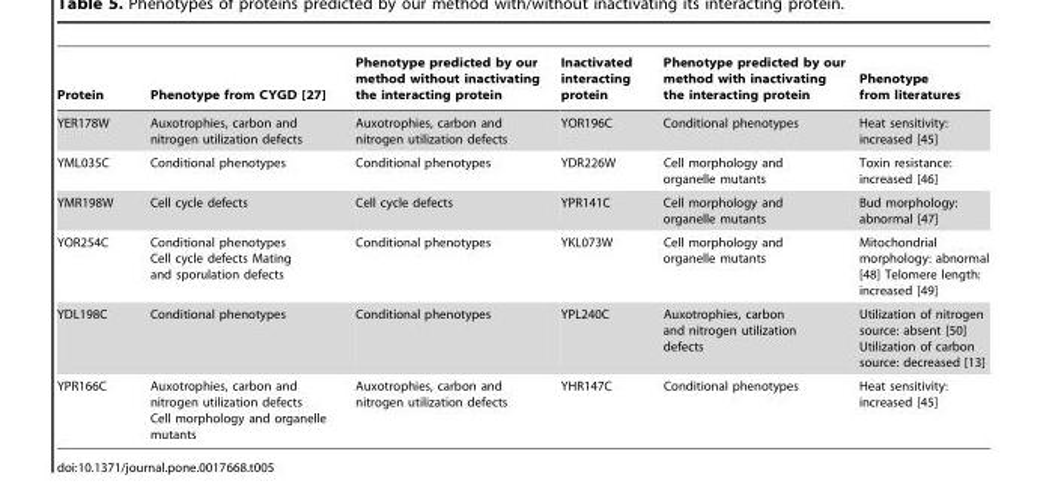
<table><thead><tr><td>Protein</td><td>Phenotype from CYGD [27]</td><td>Phenotype predicted by our method without inactivating the interacting protein</td><td>Inactivated interacting protein</td><td>Phenotype predicted by our method with inactivating the interacting protein</td><td>Phenotype from literatures</td></tr></thead><tbody><tr><td>YER178W</td><td>Auxotrophies, carbon and nitrogen utilization defects</td><td>Auxotrophies, carbon and nitrogen utilization defects</td><td>YOR196C</td><td>Conditional phenotypes</td><td>Heat sensitivity: increased [45]</td></tr><tr><td>YML035C</td><td>Conditional phenotypes</td><td>Conditional phenotypes</td><td>YDR226W</td><td>Cell morphology and organelle mutants</td><td>Toxin resistance: increased [46]</td></tr><tr><td>YMR198W</td><td>Cell cycle defects</td><td>Cell cycle defects</td><td>YPR141C</td><td>Cell morphology and organelle mutants</td><td>Bud morphology: abnormal [47]</td></tr><tr><td>YOR254C</td><td>Conditional phenotypes Cell cycle defects Mating and sporulation defects</td><td>Conditional phenotypes</td><td>YKL073W</td><td>Cell morphology and organelle mutants</td><td>Mitochondrial morphology: abnormal [48] Telomere length: increased [49]</td></tr><tr><td>YDL198C</td><td>Conditional phenotypes</td><td>Conditional phenotypes</td><td>YPL240C</td><td>Auxotrophies, carbon and nitrogen utilization defects</td><td>Utilization of nitrogen source: absent [50] Utilization of carbon source: decreased [13]</td></tr><tr><td>YPR166C</td><td>Auxotrophies, carbon and nitrogen utilization defects Cell morphology and organelle mutants</td><td>Auxotrophies, carbon and nitrogen utilization defects</td><td>YHR147C</td><td>Conditional phenotypes</td><td>Heat sensitivity: increased [45]</td></tr></tbody></table>